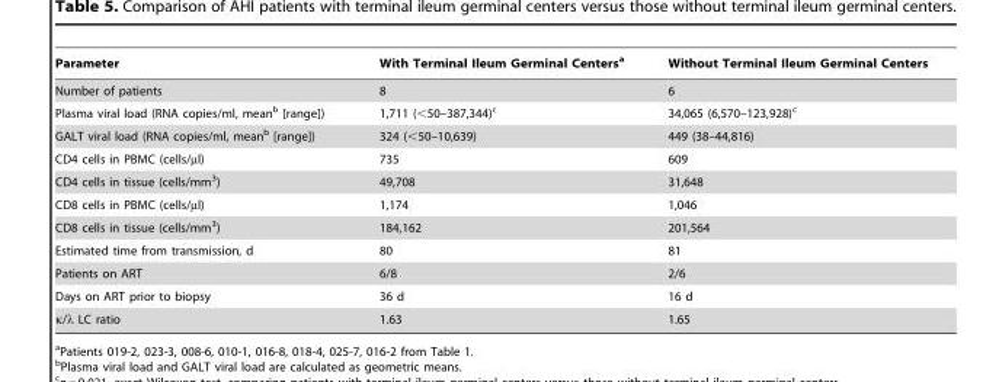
<table><thead><tr><td>Parameter</td><td>With Terminal Ileum Germinal Centers<sup>a</sup></td><td>Without Terminal Ileum Germinal Centers</td></tr></thead><tbody><tr><td>Number of patients</td><td>8</td><td>6</td></tr><tr><td>Plasma viral load (RNA copies/ml, mean<sup>b</sup> [range])</td><td>1,711 (&lt;50–387,344)<sup>c</sup></td><td>34,065 (6,570–123,928)<sup>c</sup></td></tr><tr><td>GALT viral load (RNA copies/ml, mean<sup>b</sup> [range])</td><td>324 (&lt;50–10,639)</td><td>449 (38–44,816)</td></tr><tr><td>CD4 cells in PBMC (cells/µl)</td><td>735</td><td>609</td></tr><tr><td>CD4 cells in tissue (cells/mm<sup>3</sup>)</td><td>49,708</td><td>31,648</td></tr><tr><td>CD8 cells in PBMC (cells/µl)</td><td>1,174</td><td>1,046</td></tr><tr><td>CD8 cells in tissue (cells/mm<sup>3</sup>)</td><td>184,162</td><td>201,564</td></tr><tr><td>Estimated time from transmission, d</td><td>80</td><td>81</td></tr><tr><td>Patients on ART</td><td>6/8</td><td>2/6</td></tr><tr><td>Days on ART prior to biopsy</td><td>36 d</td><td>16 d</td></tr><tr><td>κ/λ LC ratio</td><td>1.63</td><td>1.65</td></tr></tbody></table>